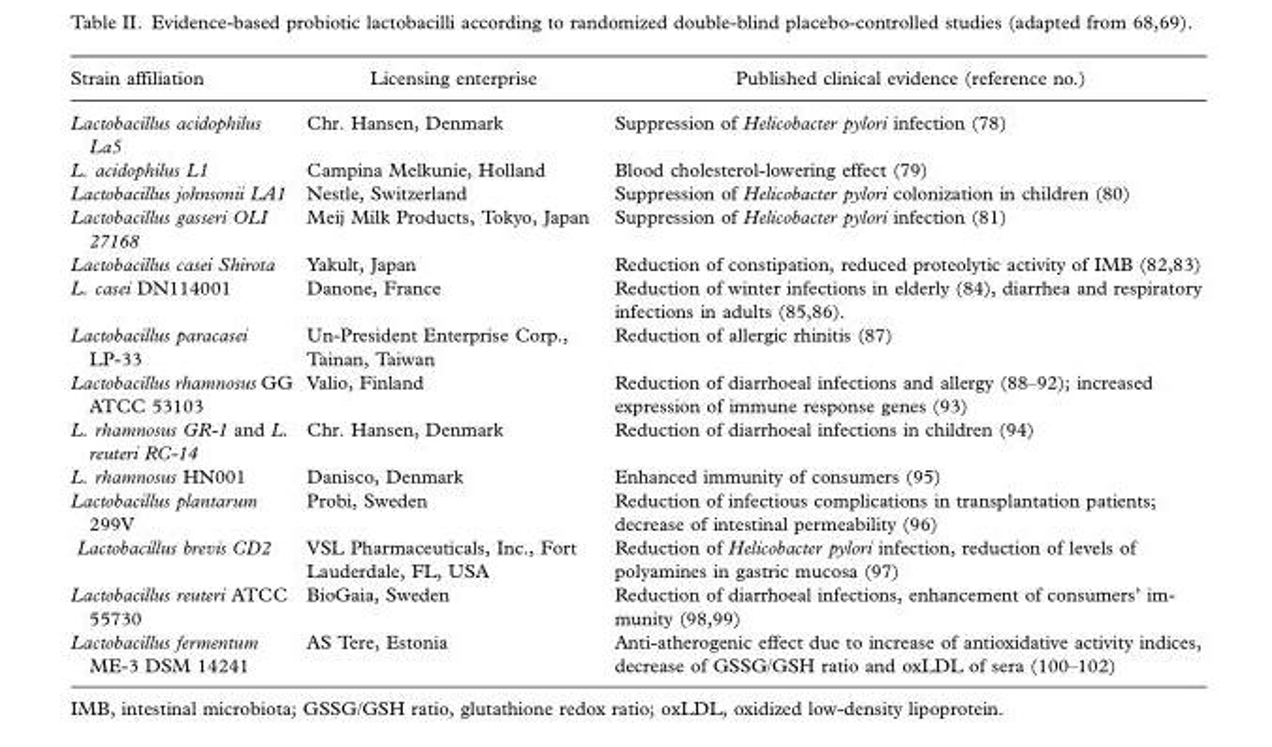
<table><thead><tr><td>Strain affiliation</td><td>Licensing enterprise</td><td>Published clinical evidence (reference no.)</td></tr></thead><tbody><tr><td>Lactobacillus acidophilus La5</td><td>Chr. Hansen, Denmark</td><td>Suppression of Helicobacter pylori infection (78)</td></tr><tr><td>L. acidophilus L1</td><td>Campina Melkunie, Holland</td><td>Blood cholesterol-lowering effect (79)</td></tr><tr><td>Lactobacillus johnsonii LA1</td><td>Nestle, Switzerland</td><td>Suppression of Helicobacter pylori colonization in children (80)</td></tr><tr><td>Lactobacillus gasseri OLI 27168</td><td>Meij Milk Products, Tokyo, Japan</td><td>Suppression of Helicobacter pylori infection (81)</td></tr><tr><td>Lactobacillus casei Shirota</td><td>Yakult, Japan</td><td>Reduction of constipation, reduced proteolytic activity of IMB (82,83)</td></tr><tr><td>L. casei DN114001</td><td>Danone, France</td><td>Reduction of winter infections in elderly (84), diarrhea and respiratory infections in adults (85,86).</td></tr><tr><td>Lactobacillus paracasei LP-33</td><td>Un-President Enterprise Corp., Tainan, Taiwan</td><td>Reduction of allergic rhinitis (87)</td></tr><tr><td>Lactobacillus rhamnosus GG ATCC 53103</td><td>Valio, Finland</td><td>Reduction of diarrhoeal infections and allergy (88–92); increased expression of immune response genes (93)</td></tr><tr><td>L. rhamnosus GR-1 and L. reuteri RC-14</td><td>Chr. Hansen, Denmark</td><td>Reduction of diarrhoeal infections in children (94)</td></tr><tr><td>L. rhamnosus HN001</td><td>Danisco, Denmark</td><td>Enhanced immunity of consumers (95)</td></tr><tr><td>Lactobacillus plantarum 299V</td><td>Probi, Sweden</td><td>Reduction of infectious complications in transplantation patients; decrease of intestinal permeability (96)</td></tr><tr><td>Lactobacillus brevis CD2</td><td>VSL Pharmaceuticals, Inc., Fort Lauderdale, FL, USA</td><td>Reduction of Helicobacter pylori infection, reduction of levels of polyamines in gastric mucosa (97)</td></tr><tr><td>Lactobacillus reuteri ATCC 55730</td><td>BioGaia, Sweden</td><td>Reduction of diarrhoeal infections, enhancement of consumers’ im- munity (98,99)</td></tr><tr><td>Lactobacillus fermentum ME-3 DSM 14241</td><td>AS Tere, Estonia</td><td>Anti-atherogenic effect due to increase of antioxidative activity indices, decrease of GSSG/GSH ratio and oxLDL of sera (100–102)</td></tr></tbody></table>